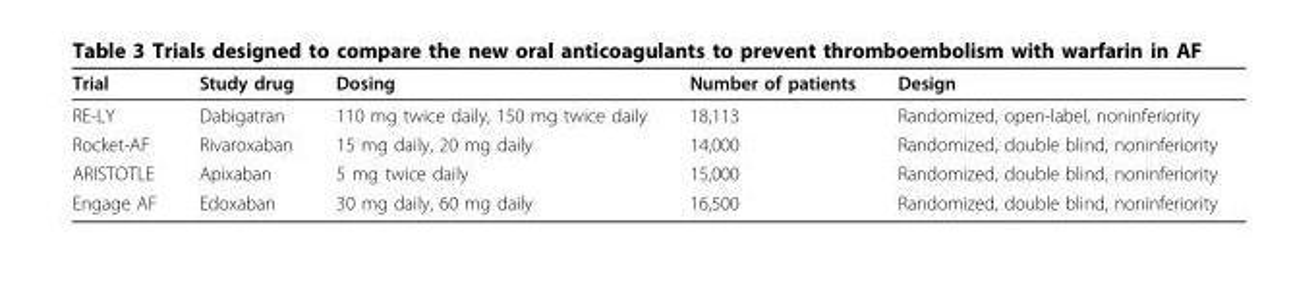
<table><thead><tr><td>Trial</td><td>Study drug</td><td>Dosing</td><td>Number of patients</td><td>Design</td></tr></thead><tbody><tr><td>RE-LY</td><td>Dabigatran</td><td>110 mg twice daily, 150 mg twice daily</td><td>18,113</td><td>Randomized, open-label, noninferiority</td></tr><tr><td>Rocket-AF</td><td>Rivaroxaban</td><td>15 mg daily, 20 mg daily</td><td>14,000</td><td>Randomized, double blind, noninferiority</td></tr><tr><td>ARISTOTLE</td><td>Apixaban</td><td>5 mg twice daily</td><td>15,000</td><td>Randomized, double blind, noninferiority</td></tr><tr><td>Engage AF</td><td>Edoxaban</td><td>30 mg daily, 60 mg daily</td><td>16,500</td><td>Randomized, double blind, noninferiority</td></tr></tbody></table>